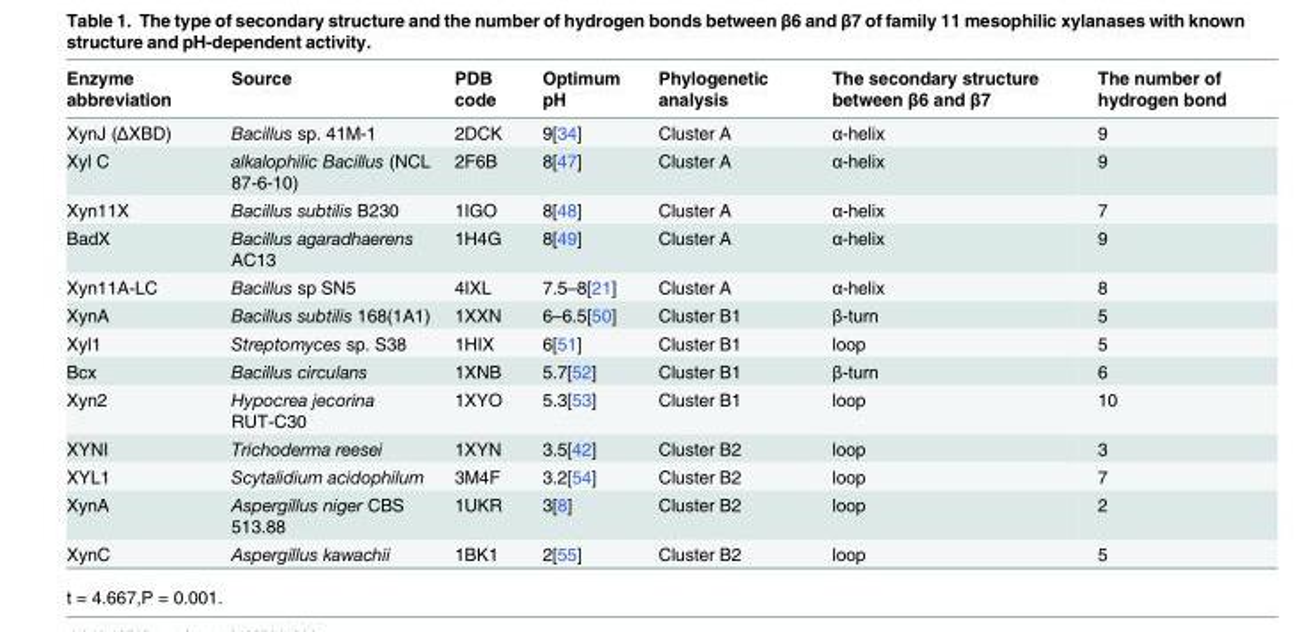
<table><thead><tr><td>Enzyme abbreviation</td><td>Source</td><td>PDB code</td><td>Optimum pH</td><td>Phylogenetic analysis</td><td>The secondary structure between β6 and β7</td><td>The number of hydrogen bond</td></tr></thead><tbody><tr><td>XynJ (ΔXBD)</td><td>Bacillus sp. 41M-1</td><td>2DCK</td><td>9[34]</td><td>Cluster A</td><td>α-helix</td><td>9</td></tr><tr><td>Xyl C</td><td>alkalophilic Bacillus (NCL 87-6-10)</td><td>2F6B</td><td>8[47]</td><td>Cluster A</td><td>α-helix</td><td>9</td></tr><tr><td>Xyn11X</td><td>Bacillus subtilis B230</td><td>1IGO</td><td>8[48]</td><td>Cluster A</td><td>α-helix</td><td>7</td></tr><tr><td>BadX</td><td>Bacillus agaradhaerens AC13</td><td>1H4G</td><td>8[49]</td><td>Cluster A</td><td>α-helix</td><td>9</td></tr><tr><td>Xyn11A-LC</td><td>Bacillus sp SN5</td><td>4IXL</td><td>7.5–8[21]</td><td>Cluster A</td><td>α-helix</td><td>8</td></tr><tr><td>XynA</td><td>Bacillus subtilis 168(1A1)</td><td>1XXN</td><td>6–6.5[50]</td><td>Cluster B1</td><td>β-turn</td><td>5</td></tr><tr><td>Xyl1</td><td>Streptomyces sp. S38</td><td>1HIX</td><td>6[51]</td><td>Cluster B1</td><td>loop</td><td>5</td></tr><tr><td>Bcx</td><td>Bacillus circulans</td><td>1XNB</td><td>5.7[52]</td><td>Cluster B1</td><td>β-turn</td><td>6</td></tr><tr><td>Xyn2</td><td>Hypocrea jecorina RUT-C30</td><td>1XYO</td><td>5.3[53]</td><td>Cluster B1</td><td>loop</td><td>10</td></tr><tr><td>XYNI</td><td>Trichoderma reesei</td><td>1XYN</td><td>3.5[42]</td><td>Cluster B2</td><td>loop</td><td>3</td></tr><tr><td>XYL1</td><td>Scytalidium acidophilum</td><td>3M4F</td><td>3.2[54]</td><td>Cluster B2</td><td>loop</td><td>7</td></tr><tr><td>XynA</td><td>Aspergillus niger CBS 513.88</td><td>1UKR</td><td>3[8]</td><td>Cluster B2</td><td>loop</td><td>2</td></tr><tr><td>XynC</td><td>Aspergillus kawachii</td><td>1BK1</td><td>2[55]</td><td>Cluster B2</td><td>loop</td><td>5</td></tr></tbody></table>